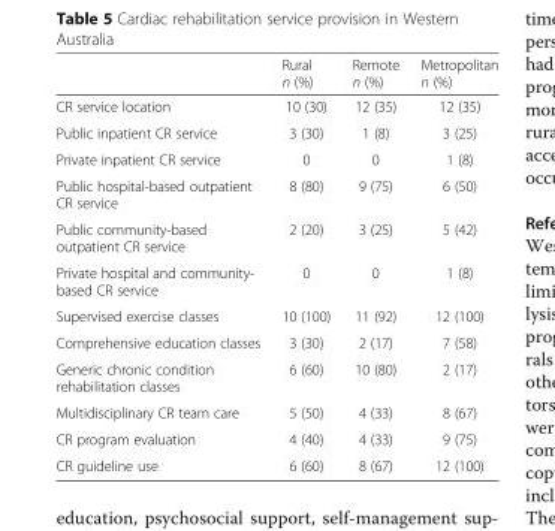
<table><thead><tr><td></td><td>Rural n (%)</td><td>Remote n (%)</td><td>Metropolitan n (%)</td></tr></thead><tbody><tr><td>CR service location</td><td>10 (30)</td><td>12 (35)</td><td>12 (35)</td></tr><tr><td>Public inpatient CR service</td><td>3 (30)</td><td>1 (8)</td><td>3 (25)</td></tr><tr><td>Private inpatient CR service</td><td>0</td><td>0</td><td>1 (8)</td></tr><tr><td>Public hospital-based outpatient CR service</td><td>8 (80)</td><td>9 (75)</td><td>6 (50)</td></tr><tr><td>Public community-based outpatient CR service</td><td>2 (20)</td><td>3 (25)</td><td>5 (42)</td></tr><tr><td>Private hospital and community- based CR service</td><td>0</td><td>0</td><td>1 (8)</td></tr><tr><td>Supervised exercise classes</td><td>10 (100)</td><td>11 (92)</td><td>12 (100)</td></tr><tr><td>Comprehensive education classes</td><td>3 (30)</td><td>2 (17)</td><td>7 (58)</td></tr><tr><td>Generic chronic condition rehabilitation classes</td><td>6 (60)</td><td>10 (80)</td><td>2 (17)</td></tr><tr><td>Multidisciplinary CR team care</td><td>5 (50)</td><td>4 (33)</td><td>8 (67)</td></tr><tr><td>CR program evaluation</td><td>4 (40)</td><td>4 (33)</td><td>9 (75)</td></tr><tr><td>CR guideline use</td><td>6 (60)</td><td>8 (67)</td><td>12 (100)</td></tr></tbody></table>